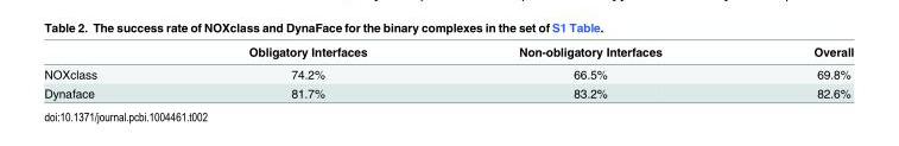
<table><thead><tr><td></td><td>Obligatory Interfaces</td><td>Non-obligatory Interfaces</td><td>Overall</td></tr></thead><tbody><tr><td>NOXclass</td><td>74.2%</td><td>66.5%</td><td>69.8%</td></tr><tr><td>Dynaface</td><td>81.7%</td><td>83.2%</td><td>82.6%</td></tr></tbody></table>